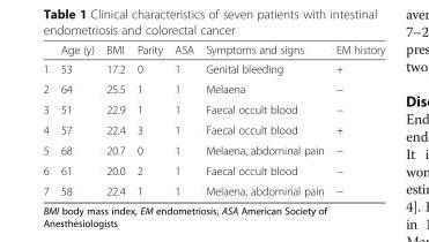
<table><thead><tr><td></td><td>Age (y)</td><td>BMI</td><td>Parity</td><td>ASA</td><td>Symptoms and signs</td><td>EM history</td></tr></thead><tbody><tr><td>1</td><td>53</td><td>17.2</td><td>0</td><td>1</td><td>Genital bleeding</td><td>+</td></tr><tr><td>2</td><td>64</td><td>25.5</td><td>1</td><td>1</td><td>Melaena</td><td>−</td></tr><tr><td>3</td><td>51</td><td>22.9</td><td>1</td><td>1</td><td>Faecal occult blood</td><td>−</td></tr><tr><td>4</td><td>57</td><td>22.4</td><td>3</td><td>1</td><td>Faecal occult blood</td><td>+</td></tr><tr><td>5</td><td>68</td><td>20.7</td><td>0</td><td>1</td><td>Melaena, abdominal pain</td><td>−</td></tr><tr><td>6</td><td>61</td><td>20.0</td><td>2</td><td>1</td><td>Faecal occult blood</td><td>−</td></tr><tr><td>7</td><td>58</td><td>22.4</td><td>1</td><td>1</td><td>Melaena, abdominal pain</td><td>−</td></tr></tbody></table>